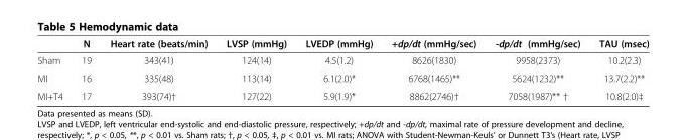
<table><thead><tr><td></td><td>N</td><td>Heart rate (beats/min)</td><td>LVSP (mmHg)</td><td>LVEDP (mmHg)</td><td>+dp/dt (mmHg/sec)</td><td>-dp/dt (mmHg/sec)</td><td>TAU (msec)</td></tr></thead><tbody><tr><td>Sham</td><td>19</td><td>343(41)</td><td>124(14)</td><td>4.5(1.2)</td><td>8626(1830)</td><td>9958(2373)</td><td>10.2(2.3)</td></tr><tr><td>MI</td><td>16</td><td>335(48)</td><td>113(14)</td><td>6.1(2.0)*</td><td>6768(1465)**</td><td>5624(1232)**</td><td>13.7(2.2)**</td></tr><tr><td>MI+T4</td><td>17</td><td>393(74)†</td><td>127(22)</td><td>5.9(1.9)*</td><td>8862(2746)†</td><td>7058(1987)** †</td><td>10.8(2.0)‡</td></tr></tbody></table>